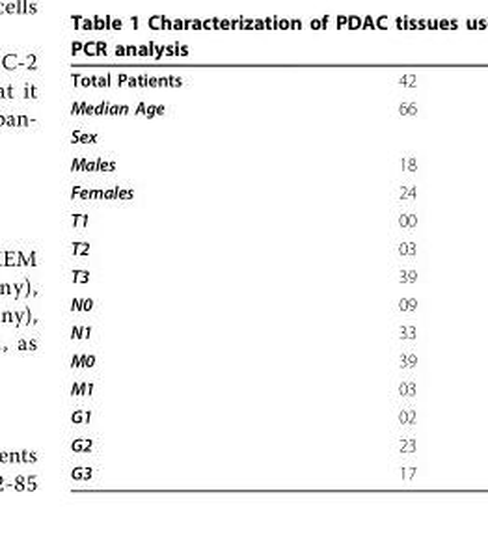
<table><tbody><tr><td>Total Patients</td><td>42</td></tr><tr><td>Median Age</td><td>66</td></tr><tr><td colspan="2">Sex</td></tr><tr><td>Males</td><td>18</td></tr><tr><td>Females</td><td>24</td></tr><tr><td>T1</td><td>00</td></tr><tr><td>T2</td><td>03</td></tr><tr><td>T3</td><td>39</td></tr><tr><td>N0</td><td>09</td></tr><tr><td>N1</td><td>33</td></tr><tr><td>M0</td><td>39</td></tr><tr><td>M1</td><td>03</td></tr><tr><td>G1</td><td>02</td></tr><tr><td>G2</td><td>23</td></tr><tr><td>G3</td><td>17</td></tr></tbody></table>